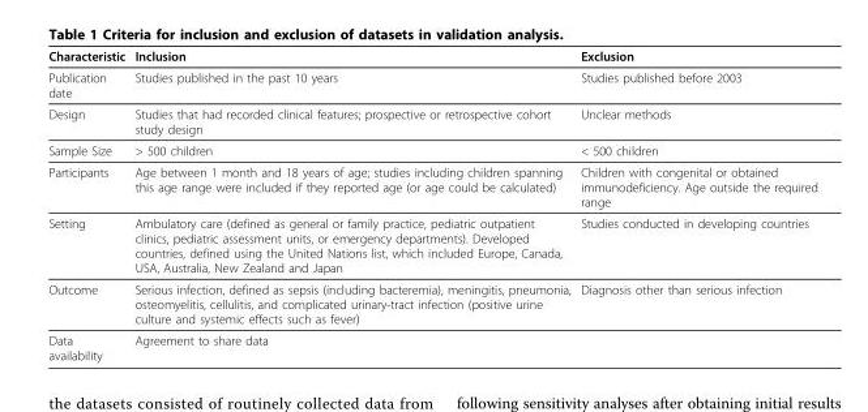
<table><thead><tr><td>Characteristic</td><td>Inclusion</td><td>Exclusion</td></tr></thead><tbody><tr><td>Publication date</td><td>Studies published in the past 10 years</td><td>Studies published before 2003</td></tr><tr><td>Design</td><td>Studies that had recorded clinical features; prospective or retrospective cohort study design</td><td>Unclear methods</td></tr><tr><td>Sample Size</td><td>&gt; 500 children</td><td>&lt; 500 children</td></tr><tr><td>Participants</td><td>Age between 1 month and 18 years of age; studies including children spanning this age range were included if they reported age (or age could be calculated)</td><td>Children with congenital or obtained immunodeficiency. Age outside the required range</td></tr><tr><td>Setting</td><td>Ambulatory care (defined as general or family practice, pediatric outpatient clinics, pediatric assessment units, or emergency departments). Developed countries, defined using the United Nations list, which included Europe, Canada, USA, Australia, New Zealand and Japan</td><td>Studies conducted in developing countries</td></tr><tr><td>Outcome</td><td>Serious infection, defined as sepsis (including bacteremia), meningitis, pneumonia, osteomyelitis, cellulitis, and complicated urinary-tract infection (positive urine culture and systemic effects such as fever)</td><td>Diagnosis other than serious infection</td></tr><tr><td>Data availability</td><td>Agreement to share data</td><td></td></tr></tbody></table>